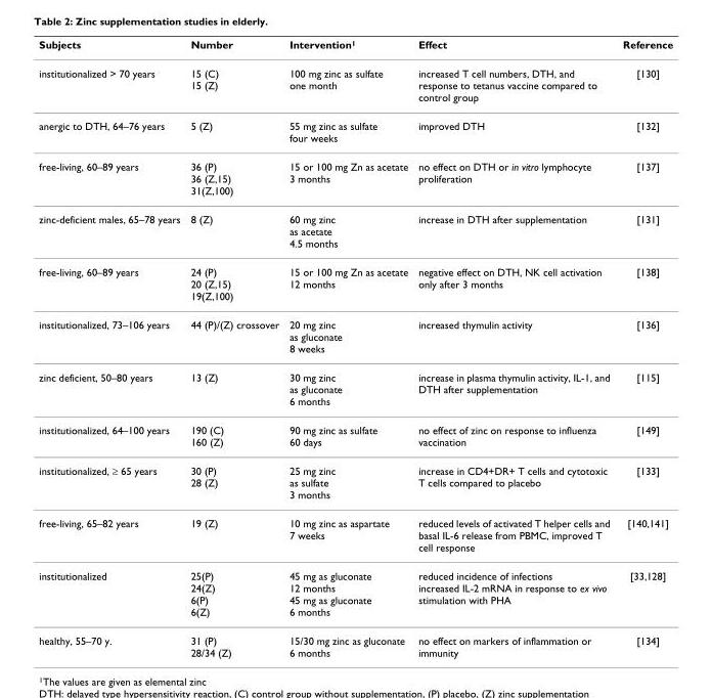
<table><thead><tr><td>Subjects</td><td>Number</td><td>Intervention<sup>1</sup></td><td>Effect</td><td>Reference</td></tr></thead><tbody><tr><td>institutionalized &gt; 70 years</td><td>15 (C) 15 (Z)</td><td>100 mg zinc as sulfate one month</td><td>increased T cell numbers, DTH, and response to tetanus vaccine compared to control group</td><td>[130]</td></tr><tr><td>anergic to DTH, 64–76 years</td><td>5 (Z)</td><td>55 mg zinc as sulfate four weeks</td><td>improved DTH</td><td>[132]</td></tr><tr><td>free-living, 60–89 years</td><td>36 (P) 36 (Z,15) 31(Z,100)</td><td>15 or 100 mg Zn as acetate 3 months</td><td>no effect on DTH or in vitro lymphocyte proliferation</td><td>[137]</td></tr><tr><td>zinc-deficient males, 65–78 years</td><td>8 (Z)</td><td>60 mg zinc as acetate 4.5 months</td><td>increase in DTH after supplementation</td><td>[131]</td></tr><tr><td>free-living, 60–89 years</td><td>24 (P) 20 (Z,15) 19(Z,100)</td><td>15 or 100 mg Zn as acetate 12 months</td><td>negative effect on DTH, NK cell activation only after 3 months</td><td>[138]</td></tr><tr><td>institutionalized, 73–106 years</td><td>44 (P)/(Z) crossover</td><td>20 mg zinc as gluconate 8 weeks</td><td>increased thymulin activity</td><td>[136]</td></tr><tr><td>zinc deficient, 50–80 years</td><td>13 (Z)</td><td>30 mg zinc as gluconate 6 months</td><td>increase in plasma thymulin activity, IL-1, and DTH after supplementation</td><td>[115]</td></tr><tr><td>institutionalized, 64–100 years</td><td>190 (C) 160 (Z)</td><td>90 mg zinc as sulfate 60 days</td><td>no effect of zinc on response to influenza vaccination</td><td>[149]</td></tr><tr><td>institutionalized, ≥ 65 years</td><td>30 (P) 28 (Z)</td><td>25 mg zinc as sulfate 3 months</td><td>increase in CD4+DR+ T cells and cytotoxic T cells compared to placebo</td><td>[133]</td></tr><tr><td>free-living, 65–82 years</td><td>19 (Z)</td><td>10 mg zinc as aspartate 7 weeks</td><td>reduced levels of activated T helper cells and basal IL-6 release from PBMC, improved T cell response</td><td>[140,141]</td></tr><tr><td>institutionalized</td><td>25(P) 24(Z) 6(P) 6(Z)</td><td>45 mg as gluconate 12 months 45 mg as gluconate 6 months</td><td>reduced incidence of infections increased IL-2 mRNA in response to ex vivo stimulation with PHA</td><td>[33,128]</td></tr><tr><td>healthy, 55–70 y.</td><td>31 (P) 28/34 (Z)</td><td>15/30 mg zinc as gluconate 6 months</td><td>no effect on markers of inflammation or immunity</td><td>[134]</td></tr></tbody></table>